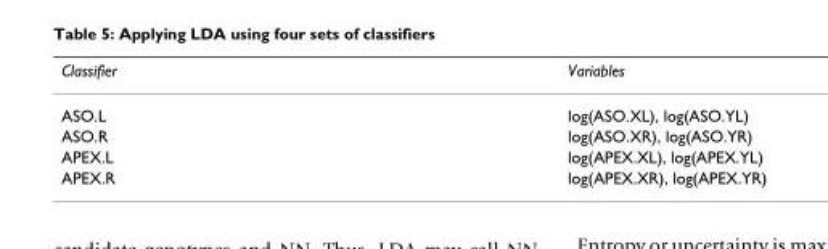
<table><thead><tr><td>Classifier</td><td>Variables</td></tr></thead><tbody><tr><td>ASO.L</td><td>log(ASO.XL), log(ASO.YL)</td></tr><tr><td>ASO.R</td><td>log(ASO.XR), log(ASO.YR)</td></tr><tr><td>APEX.L</td><td>log(APEX.XL), log(APEX.YL)</td></tr><tr><td>APEX.R</td><td>log(APEX.XR), log(APEX.YR)</td></tr></tbody></table>